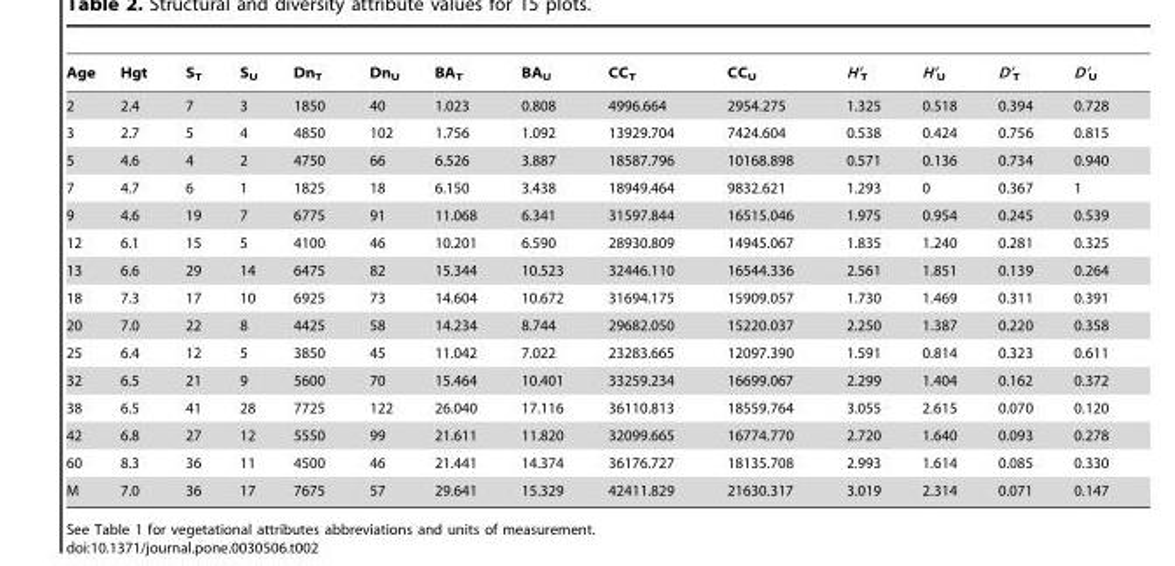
<table><thead><tr><td>Age</td><td>Hgt</td><td>S<sub>T</sub></td><td>S<sub>U</sub></td><td>Dn<sub>T</sub></td><td>Dn<sub>U</sub></td><td>BA<sub>T</sub></td><td>BA<sub>U</sub></td><td>CC<sub>T</sub></td><td>CC<sub>U</sub></td><td>H’<sub>T</sub></td><td>H’<sub>U</sub></td><td>D’<sub>T</sub></td><td>D’<sub>U</sub></td></tr></thead><tbody><tr><td>2</td><td>2.4</td><td>7</td><td>3</td><td>1850</td><td>40</td><td>1.023</td><td>0.808</td><td>4996.664</td><td>2954.275</td><td>1.325</td><td>0.518</td><td>0.394</td><td>0.728</td></tr><tr><td>3</td><td>2.7</td><td>5</td><td>4</td><td>4850</td><td>102</td><td>1.756</td><td>1.092</td><td>13929.704</td><td>7424.604</td><td>0.538</td><td>0.424</td><td>0.756</td><td>0.815</td></tr><tr><td>5</td><td>4.6</td><td>4</td><td>2</td><td>4750</td><td>66</td><td>6.526</td><td>3.887</td><td>18587.796</td><td>10168.898</td><td>0.571</td><td>0.136</td><td>0.734</td><td>0.940</td></tr><tr><td>7</td><td>4.7</td><td>6</td><td>1</td><td>1825</td><td>18</td><td>6.150</td><td>3.438</td><td>18949.464</td><td>9832.621</td><td>1.293</td><td>0</td><td>0.367</td><td>1</td></tr><tr><td>9</td><td>4.6</td><td>19</td><td>7</td><td>6775</td><td>91</td><td>11.068</td><td>6.341</td><td>31597.844</td><td>16515.046</td><td>1.975</td><td>0.954</td><td>0.245</td><td>0.539</td></tr><tr><td>12</td><td>6.1</td><td>15</td><td>5</td><td>4100</td><td>46</td><td>10.201</td><td>6.590</td><td>28930.809</td><td>14945.067</td><td>1.835</td><td>1.240</td><td>0.281</td><td>0.325</td></tr><tr><td>13</td><td>6.6</td><td>29</td><td>14</td><td>6475</td><td>82</td><td>15.344</td><td>10.523</td><td>32446.110</td><td>16544.336</td><td>2.561</td><td>1.851</td><td>0.139</td><td>0.264</td></tr><tr><td>18</td><td>7.3</td><td>17</td><td>10</td><td>6925</td><td>73</td><td>14.604</td><td>10.672</td><td>31694.175</td><td>15909.057</td><td>1.730</td><td>1.469</td><td>0.311</td><td>0.391</td></tr><tr><td>20</td><td>7.0</td><td>22</td><td>8</td><td>4425</td><td>58</td><td>14.234</td><td>8.744</td><td>29682.050</td><td>15220.037</td><td>2.250</td><td>1.387</td><td>0.220</td><td>0.358</td></tr><tr><td>25</td><td>6.4</td><td>12</td><td>5</td><td>3850</td><td>45</td><td>11.042</td><td>7.022</td><td>23283.665</td><td>12097.390</td><td>1.591</td><td>0.814</td><td>0.323</td><td>0.611</td></tr><tr><td>32</td><td>6.5</td><td>21</td><td>9</td><td>5600</td><td>70</td><td>15.464</td><td>10.401</td><td>33259.234</td><td>16699.067</td><td>2.299</td><td>1.404</td><td>0.162</td><td>0.372</td></tr><tr><td>38</td><td>6.5</td><td>41</td><td>28</td><td>7725</td><td>122</td><td>26.040</td><td>17.116</td><td>36110.813</td><td>18559.764</td><td>3.055</td><td>2.615</td><td>0.070</td><td>0.120</td></tr><tr><td>42</td><td>6.8</td><td>27</td><td>12</td><td>5550</td><td>99</td><td>21.611</td><td>11.820</td><td>32099.665</td><td>16774.770</td><td>2.720</td><td>1.640</td><td>0.093</td><td>0.278</td></tr><tr><td>60</td><td>8.3</td><td>36</td><td>11</td><td>4500</td><td>46</td><td>21.441</td><td>14.374</td><td>36176.727</td><td>18135.708</td><td>2.993</td><td>1.614</td><td>0.085</td><td>0.330</td></tr><tr><td>M</td><td>7.0</td><td>36</td><td>17</td><td>7675</td><td>57</td><td>29.641</td><td>15.329</td><td>42411.829</td><td>21630.317</td><td>3.019</td><td>2.314</td><td>0.071</td><td>0.147</td></tr></tbody></table>